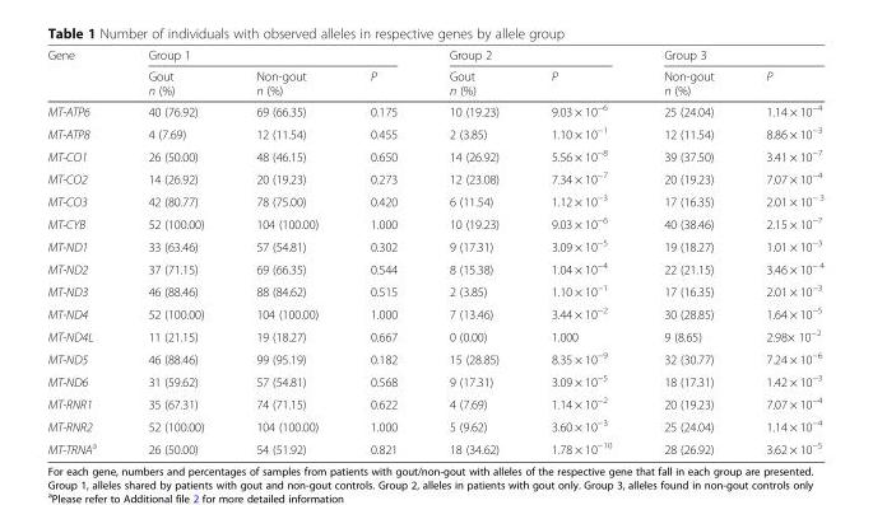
<table><thead><tr><td rowspan="2">Gene</td><td colspan="3">Group 1</td><td colspan="2">Group 2</td><td colspan="2">Group 3</td></tr><tr><td>Gout n (%)</td><td>Non-gout n (%)</td><td>P</td><td>Gout n (%)</td><td>P</td><td>Non-gout n (%)</td><td>P</td></tr></thead><tbody><tr><td>MT-ATP6</td><td>40 (76.92)</td><td>69 (66.35)</td><td>0.175</td><td>10 (19.23)</td><td>9.03 × 10<sup>−6</sup></td><td>25 (24.04)</td><td>1.14 × 10<sup>−4</sup></td></tr><tr><td>MT-ATP8</td><td>4 (7.69)</td><td>12 (11.54)</td><td>0.455</td><td>2 (3.85)</td><td>1.10 × 10<sup>−1</sup></td><td>12 (11.54)</td><td>8.86 × 10<sup>−3</sup></td></tr><tr><td>MT-CO1</td><td>26 (50.00)</td><td>48 (46.15)</td><td>0.650</td><td>14 (26.92)</td><td>5.56 × 10<sup>−8</sup></td><td>39 (37.50)</td><td>3.41 × 10<sup>−7</sup></td></tr><tr><td>MT-CO2</td><td>14 (26.92)</td><td>20 (19.23)</td><td>0.273</td><td>12 (23.08)</td><td>7.34 × 10<sup>−7</sup></td><td>20 (19.23)</td><td>7.07 × 10<sup>−4</sup></td></tr><tr><td>MT-CO3</td><td>42 (80.77)</td><td>78 (75.00)</td><td>0.420</td><td>6 (11.54)</td><td>1.12 × 10<sup>−3</sup></td><td>17 (16.35)</td><td>2.01 × 10<sup>− 3</sup></td></tr><tr><td>MT-CYB</td><td>52 (100.00)</td><td>104 (100.00)</td><td>1.000</td><td>10 (19.23)</td><td>9.03 × 10<sup>−6</sup></td><td>40 (38.46)</td><td>2.15 × 10<sup>−7</sup></td></tr><tr><td>MT-ND1</td><td>33 (63.46)</td><td>57 (54.81)</td><td>0.302</td><td>9 (17.31)</td><td>3.09 × 10<sup>−5</sup></td><td>19 (18.27)</td><td>1.01 × 10<sup>−3</sup></td></tr><tr><td>MT-ND2</td><td>37 (71.15)</td><td>69 (66.35)</td><td>0.544</td><td>8 (15.38)</td><td>1.04 × 10<sup>−4</sup></td><td>22 (21.15)</td><td>3.46 × 10<sup>− 4</sup></td></tr><tr><td>MT-ND3</td><td>46 (88.46)</td><td>88 (84.62)</td><td>0.515</td><td>2 (3.85)</td><td>1.10 × 10<sup>−1</sup></td><td>17 (16.35)</td><td>2.01 × 10<sup>−3</sup></td></tr><tr><td>MT-ND4</td><td>52 (100.00)</td><td>104 (100.00)</td><td>1.000</td><td>7 (13.46)</td><td>3.44 × 10<sup>−2</sup></td><td>30 (28.85)</td><td>1.64 × 10<sup>−5</sup></td></tr><tr><td>MT-ND4L</td><td>11 (21.15)</td><td>19 (18.27)</td><td>0.667</td><td>0 (0.00)</td><td>1.000</td><td>9 (8.65)</td><td>2.98× 10<sup>−2</sup></td></tr><tr><td>MT-ND5</td><td>46 (88.46)</td><td>99 (95.19)</td><td>0.182</td><td>15 (28.85)</td><td>8.35 × 10<sup>−9</sup></td><td>32 (30.77)</td><td>7.24 × 10<sup>−6</sup></td></tr><tr><td>MT-ND6</td><td>31 (59.62)</td><td>57 (54.81)</td><td>0.568</td><td>9 (17.31)</td><td>3.09 × 10<sup>−5</sup></td><td>18 (17.31)</td><td>1.42 × 10<sup>−3</sup></td></tr><tr><td>MT-RNR1</td><td>35 (67.31)</td><td>74 (71.15)</td><td>0.622</td><td>4 (7.69)</td><td>1.14 × 10<sup>−2</sup></td><td>20 (19.23)</td><td>7.07 × 10<sup>−4</sup></td></tr><tr><td>MT-RNR2</td><td>52 (100.00)</td><td>104 (100.00)</td><td>1.000</td><td>5 (9.62)</td><td>3.60 × 10<sup>−3</sup></td><td>25 (24.04)</td><td>1.14 × 10<sup>−4</sup></td></tr><tr><td>MT-TRNA<sup>a</sup></td><td>26 (50.00)</td><td>54 (51.92)</td><td>0.821</td><td>18 (34.62)</td><td>1.78 × 10<sup>−10</sup></td><td>28 (26.92)</td><td>3.62 × 10<sup>−5</sup></td></tr></tbody></table>